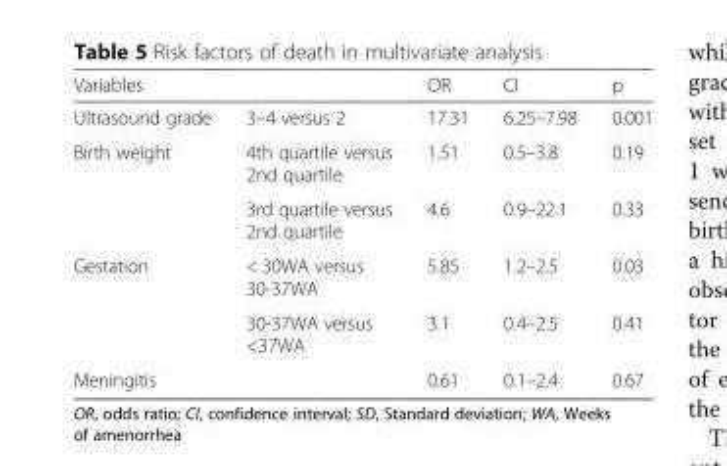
<table><thead><tr><td colspan="2">Variables</td><td rowspan="2">OR 17.31</td><td rowspan="2">CI 6.25–7.98</td><td rowspan="2">p 0.001</td></tr><tr><td>Ultrasound grade</td><td>3–4 versus 2</td></tr></thead><tbody><tr><td rowspan="2">Birth weight</td><td>4th quartile versus 2nd quartile</td><td>1.51</td><td>0.5–3.8</td><td>0.19</td></tr><tr><td>3rd quartile versus 2nd quartile</td><td>4.6</td><td>0.9–22.1</td><td>0.33</td></tr><tr><td rowspan="2">Gestation</td><td>&lt; 30WA versus 30-37WA</td><td>5.85</td><td>1.2–2.5</td><td>0.03</td></tr><tr><td>30-37WA versus &lt;37WA</td><td>3.1</td><td>0.4–2.5</td><td>0.41</td></tr><tr><td>Meningitis</td><td></td><td>0.61</td><td>0.1–2.4</td><td>0.67</td></tr></tbody></table>